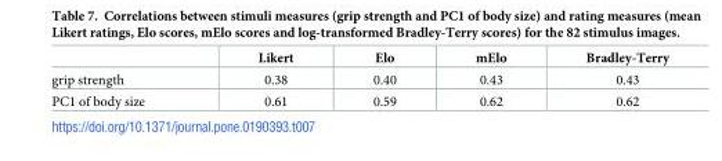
<table><thead><tr><td></td><td>Likert</td><td>Elo</td><td>mElo</td><td>Bradley-Terry</td></tr></thead><tbody><tr><td>grip strength</td><td>0.38</td><td>0.40</td><td>0.43</td><td>0.43</td></tr><tr><td>PC1 of body size</td><td>0.61</td><td>0.59</td><td>0.62</td><td>0.62</td></tr></tbody></table>